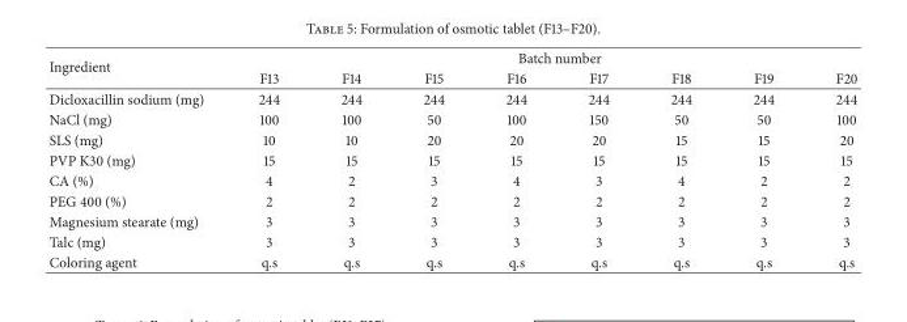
<table><thead><tr><td rowspan="2">Ingredient</td><td colspan="8">Batch number</td></tr><tr><td>F13</td><td>F14</td><td>F15</td><td>F16</td><td>F17</td><td>F18</td><td>F19</td><td>F20</td></tr></thead><tbody><tr><td>Dicloxacillin sodium (mg)</td><td>244</td><td>244</td><td>244</td><td>244</td><td>244</td><td>244</td><td>244</td><td>244</td></tr><tr><td>NaCl (mg)</td><td>100</td><td>100</td><td>50</td><td>100</td><td>150</td><td>50</td><td>50</td><td>100</td></tr><tr><td>SLS (mg)</td><td>10</td><td>10</td><td>20</td><td>20</td><td>20</td><td>15</td><td>15</td><td>20</td></tr><tr><td>PVP K30 (mg)</td><td>15</td><td>15</td><td>15</td><td>15</td><td>15</td><td>15</td><td>15</td><td>15</td></tr><tr><td>CA (%)</td><td>4</td><td>2</td><td>3</td><td>4</td><td>3</td><td>4</td><td>2</td><td>2</td></tr><tr><td>PEG 400 (%)</td><td>2</td><td>2</td><td>2</td><td>2</td><td>2</td><td>2</td><td>2</td><td>2</td></tr><tr><td>Magnesium stearate (mg)</td><td>3</td><td>3</td><td>3</td><td>3</td><td>3</td><td>3</td><td>3</td><td>3</td></tr><tr><td>Talc (mg)</td><td>3</td><td>3</td><td>3</td><td>3</td><td>3</td><td>3</td><td>3</td><td>3</td></tr><tr><td>Coloring agent</td><td>q.s</td><td>q.s</td><td>q.s</td><td>q.s</td><td>q.s</td><td>q.s</td><td>q.s</td><td>q.s</td></tr></tbody></table>